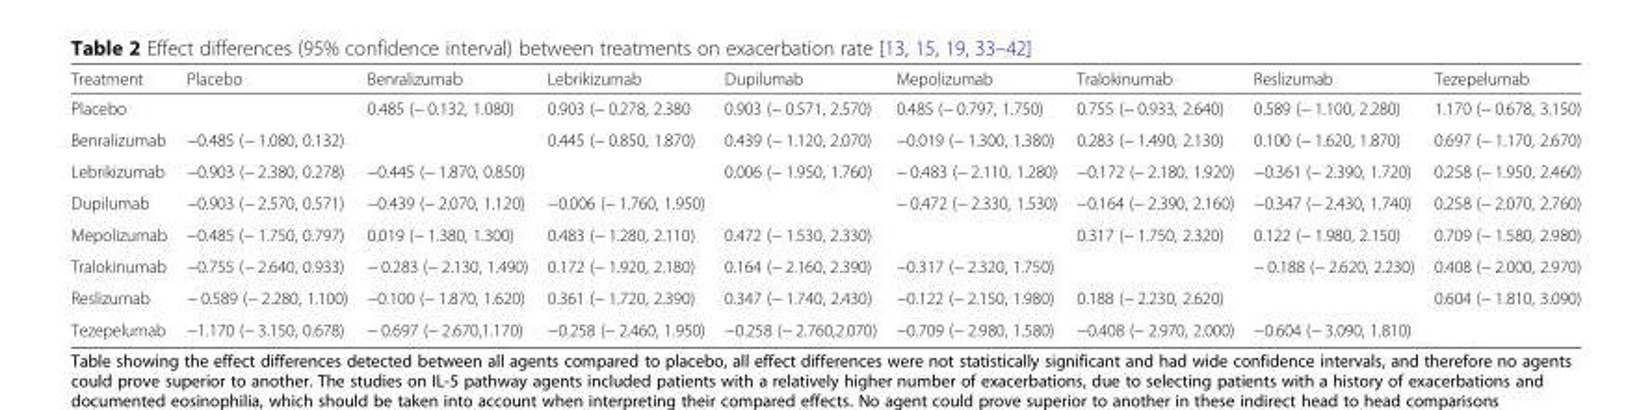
<table><thead><tr><td>Treatment</td><td>Placebo</td><td>Benralizumab</td><td>Lebrikizumab</td><td>Dupilumab</td><td>Mepolizumab</td><td>Tralokinumab</td><td>Reslizumab</td><td>Tezepelumab</td></tr></thead><tbody><tr><td>Placebo</td><td></td><td>0.485 (− 0.132, 1.080)</td><td>0.903 (− 0.278, 2.380</td><td>0.903 (− 0.571, 2.570)</td><td>0.485 (− 0.797, 1.750)</td><td>0.755 (− 0.933, 2.640)</td><td>0.589 (− 1.100, 2.280)</td><td>1.170 (− 0.678, 3.150)</td></tr><tr><td>Benralizumab</td><td>−0.485 (− 1.080, 0.132)</td><td></td><td>0.445 (− 0.850, 1.870)</td><td>0.439 (− 1.120, 2.070)</td><td>−0.019 (− 1.300, 1.380)</td><td>0.283 (− 1.490, 2.130)</td><td>0.100 (− 1.620, 1.870)</td><td>0.697 (− 1.170, 2.670)</td></tr><tr><td>Lebrikizumab</td><td>−0.903 (− 2.380, 0.278)</td><td>−0.445 (− 1.870, 0.850)</td><td></td><td>0.006 (− 1.950, 1.760)</td><td>− 0.483 (− 2.110, 1.280)</td><td>−0.172 (− 2.180, 1.920)</td><td>−0.361 (− 2.390, 1.720)</td><td>0.258 (− 1.950, 2.460)</td></tr><tr><td>Dupilumab</td><td>−0.903 (− 2.570, 0.571)</td><td>−0.439 (− 2.070, 1.120)</td><td>−0.006 (− 1.760, 1.950)</td><td></td><td>− 0.472 (− 2.330, 1.530)</td><td>−0.164 (− 2.390, 2.160)</td><td>−0.347 (− 2.430, 1.740)</td><td>0.258 (− 2.070, 2.760)</td></tr><tr><td>Mepolizumab</td><td>−0.485 (− 1.750, 0.797)</td><td>0.019 (− 1.380, 1.300)</td><td>0.483 (− 1.280, 2.110)</td><td>0.472 (− 1.530, 2.330)</td><td></td><td>0.317 (− 1.750, 2.320)</td><td>0.122 (− 1.980, 2.150)</td><td>0.709 (− 1.580, 2.980)</td></tr><tr><td>Tralokinumab</td><td>−0.755 (− 2.640, 0.933)</td><td>− 0.283 (− 2.130, 1.490)</td><td>0.172 (− 1.920, 2.180)</td><td>0.164 (− 2.160, 2.390)</td><td>−0.317 (− 2.320, 1.750)</td><td></td><td>− 0.188 (− 2.620, 2.230)</td><td>0.408 (− 2.000, 2.970)</td></tr><tr><td>Reslizumab</td><td>− 0.589 (− 2.280, 1.100)</td><td>−0.100 (− 1.870, 1.620)</td><td>0.361 (− 1.720, 2.390)</td><td>0.347 (− 1.740, 2.430)</td><td>−0.122 (− 2.150, 1.980)</td><td>0.188 (− 2.230, 2.620)</td><td></td><td>0.604 (− 1.810, 3.090)</td></tr><tr><td>Tezepelumab</td><td>−1.170 (− 3.150, 0.678)</td><td>− 0.697 (− 2.670,1.170)</td><td>−0.258 (− 2.460, 1.950)</td><td>−0.258 (− 2.760,2.070)</td><td>−0.709 (− 2.980, 1.580)</td><td>−0.408 (− 2.970, 2.000)</td><td>−0.604 (− 3.090, 1.810)</td><td></td></tr></tbody></table>